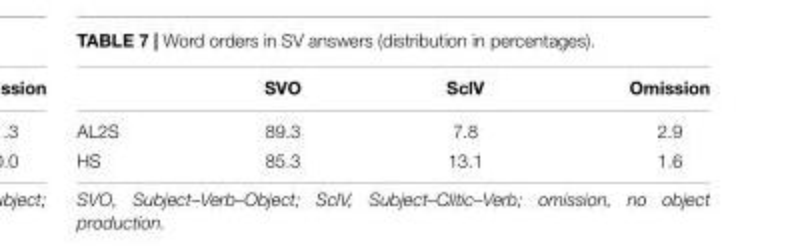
<table><thead><tr><td></td><td>SVO</td><td>SclV</td><td>Omission</td></tr></thead><tbody><tr><td>AL2S</td><td>89.3</td><td>7.8</td><td>2.9</td></tr><tr><td>HS</td><td>85.3</td><td>13.1</td><td>1.6</td></tr></tbody></table>